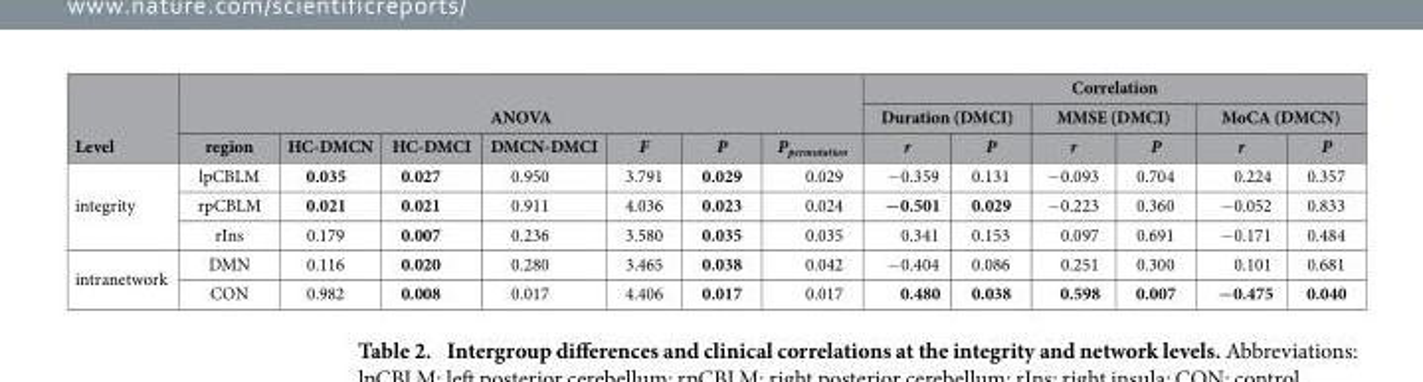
<table><thead><tr><td rowspan="3">Level</td><td></td><td></td><td></td><td></td><td></td><td></td><td></td><td colspan="6">Correlation</td></tr><tr><td colspan="7">ANOVA</td><td colspan="2">Duration (DMCI)</td><td colspan="2">MMSE (DMCI)</td><td colspan="2">MoCA (DMCN)</td></tr><tr><td>region</td><td>HC-DMCN</td><td>HC-DMCI</td><td>DMCN-DMCI</td><td>F</td><td>P</td><td>P<sub>permutation</sub></td><td>r</td><td>P</td><td>r</td><td>P</td><td>r</td><td>P</td></tr></thead><tbody><tr><td rowspan="3">integrity</td><td>lpCBLM</td><td>0.035</td><td>0.027</td><td>0.950</td><td>3.791</td><td>0.029</td><td>0.029</td><td>− 0.359</td><td>0.131</td><td>− 0.093</td><td>0.704</td><td>0.224</td><td>0.357</td></tr><tr><td>rpCBLM</td><td>0.021</td><td>0.021</td><td>0.911</td><td>4.036</td><td>0.023</td><td>0.024</td><td>−0.501</td><td>0.029</td><td>− 0.223</td><td>0.360</td><td>− 0.052</td><td>0.833</td></tr><tr><td>rIns</td><td>0.179</td><td>0.007</td><td>0.236</td><td>3.580</td><td>0.035</td><td>0.035</td><td>0.341</td><td>0.153</td><td>0.097</td><td>0.691</td><td>− 0.171</td><td>0.484</td></tr><tr><td rowspan="2">intranetwork</td><td>DMN</td><td>0.116</td><td>0.020</td><td>0.280</td><td>3.465</td><td>0.038</td><td>0.042</td><td>− 0.404</td><td>0.086</td><td>0.251</td><td>0.300</td><td>0.101</td><td>0.681</td></tr><tr><td>CON</td><td>0.982</td><td>0.008</td><td>0.017</td><td>4.406</td><td>0.017</td><td>0.017</td><td>0.480</td><td>0.038</td><td>0.598</td><td>0.007</td><td>−0.475</td><td>0.040</td></tr></tbody></table>